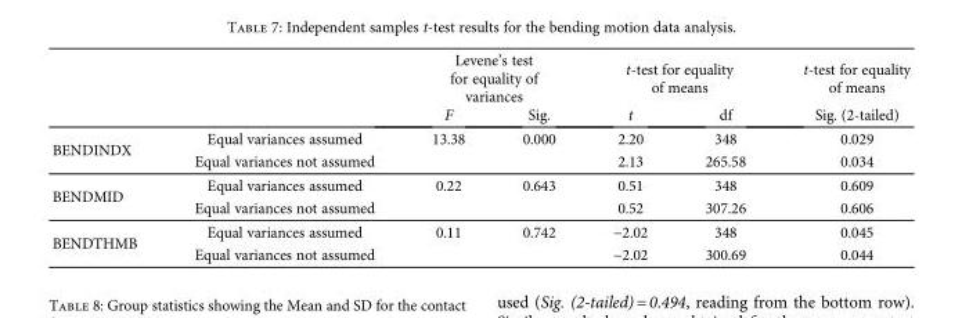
<table><thead><tr><td rowspan="2"></td><td rowspan="2"></td><td colspan="2">Levene’s test for equality of variances</td><td colspan="2">t-test for equality of means</td><td rowspan="2">t-test for equality of means Sig. (2-tailed)</td></tr><tr><td>F</td><td>Sig.</td><td>t</td><td>df</td></tr></thead><tbody><tr><td rowspan="2">BENDINDX</td><td>Equal variances assumed</td><td>13.38</td><td>0.000</td><td>2.20</td><td>348</td><td>0.029</td></tr><tr><td>Equal variances not assumed</td><td></td><td></td><td>2.13</td><td>265.58</td><td>0.034</td></tr><tr><td rowspan="2">BENDMID</td><td>Equal variances assumed</td><td>0.22</td><td>0.643</td><td>0.51</td><td>348</td><td>0.609</td></tr><tr><td>Equal variances not assumed</td><td></td><td></td><td>0.52</td><td>307.26</td><td>0.606</td></tr><tr><td rowspan="2">BENDTHMB</td><td>Equal variances assumed</td><td>0.11</td><td>0.742</td><td>−2.02</td><td>348</td><td>0.045</td></tr><tr><td>Equal variances not assumed</td><td></td><td></td><td>−2.02</td><td>300.69</td><td>0.044</td></tr></tbody></table>